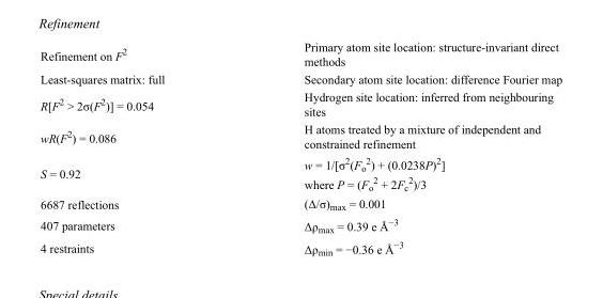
<table><tbody><tr><td>Refinement on F<sup>2</sup></td><td>Primary atom site location: structure-invariant direct methods</td></tr><tr><td>Least-squares matrix: full</td><td>Secondary atom site location: difference Fourier map</td></tr><tr><td>R[F<sup>2</sup> &gt; 2σ(F<sup>2</sup>)] = 0.054</td><td>Hydrogen site location: inferred from neighbouring sites</td></tr><tr><td>wR(F<sup>2</sup>) = 0.086</td><td>H atoms treated by a mixture of independent and constrained refinement</td></tr><tr><td>S = 0.92</td><td>w = 1/[σ<sup>2</sup>(F<sub>o</sub> <sup>2</sup>) + (0.0238P)<sup>2</sup>] where P = (F<sub>o</sub> <sup>2</sup> + 2F<sub>c</sub> <sup>2</sup>)/3</td></tr><tr><td>6687 reflections</td><td>(Δ/σ)<sub>max</sub> = 0.001</td></tr><tr><td>407 parameters</td><td>Δρ<sub>max</sub> = 0.39 e Å<sup>−3</sup></td></tr><tr><td>4 restraints</td><td>Δρ<sub>min</sub> = −0.36 e Å<sup>−3</sup></td></tr></tbody></table>